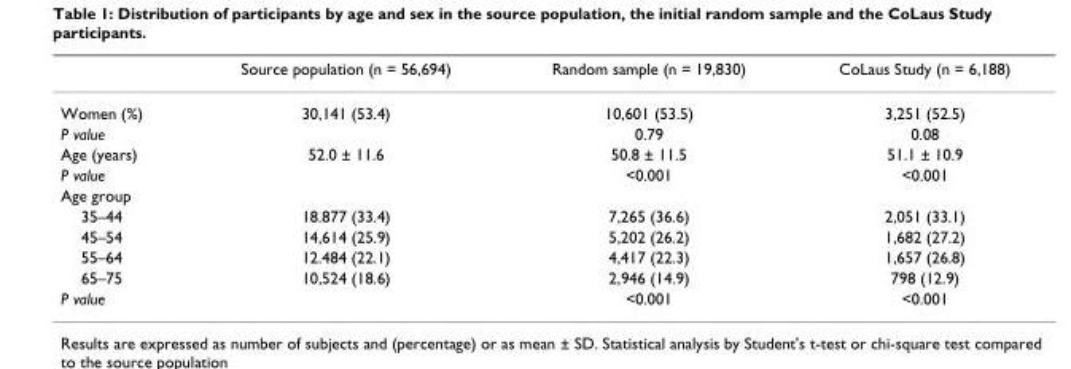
<table><thead><tr><td></td><td>Source population (n = 56,694)</td><td>Random sample (n = 19,830)</td><td>CoLaus Study (n = 6,188)</td></tr></thead><tbody><tr><td>Women (%)</td><td>30,141 (53.4)</td><td>10,601 (53.5)</td><td>3,251 (52.5)</td></tr><tr><td>P value</td><td></td><td>0.79</td><td>0.08</td></tr><tr><td>Age (years)</td><td>52.0 ± 11.6</td><td>50.8 ± 11.5</td><td>51.1 ± 10.9</td></tr><tr><td>P value</td><td></td><td>&lt;0.001</td><td>&lt;0.001</td></tr><tr><td colspan="4">Age group</td></tr><tr><td>35–44</td><td>18.877 (33.4)</td><td>7,265 (36.6)</td><td>2,051 (33.1)</td></tr><tr><td>45–54</td><td>14,614 (25.9)</td><td>5,202 (26.2)</td><td>1,682 (27.2)</td></tr><tr><td>55–64</td><td>12.484 (22.1)</td><td>4,417 (22.3)</td><td>1,657 (26.8)</td></tr><tr><td>65–75</td><td>10,524 (18.6)</td><td>2,946 (14.9)</td><td>798 (12.9)</td></tr><tr><td>P value</td><td></td><td>&lt;0.001</td><td>&lt;0.001</td></tr></tbody></table>